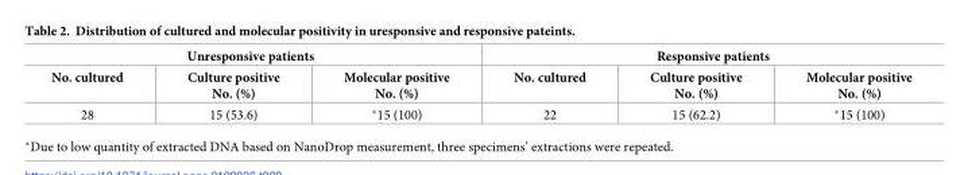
<table><thead><tr><td colspan="3">Unresponsive patients</td><td colspan="3">Responsive patients</td></tr><tr><td>No. cultured</td><td>Culture positive No. (%)</td><td>Molecular positive No. (%)</td><td>No. cultured</td><td>Culture positive No. (%)</td><td>Molecular positive No. (%)</td></tr></thead><tbody><tr><td>28</td><td>15 (53.6)</td><td>*15 (100)</td><td>22</td><td>15 (62.2)</td><td>*15 (100)</td></tr></tbody></table>